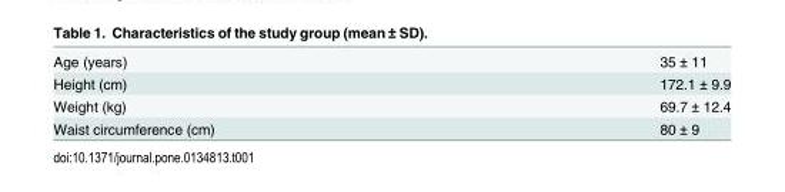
<table><tbody><tr><td>Age (years)</td><td>35 ± 11</td></tr><tr><td>Height (cm)</td><td>172.1 ± 9.9</td></tr><tr><td>Weight (kg)</td><td>69.7 ± 12.4</td></tr><tr><td>Waist circumference (cm)</td><td>80 ± 9</td></tr></tbody></table>